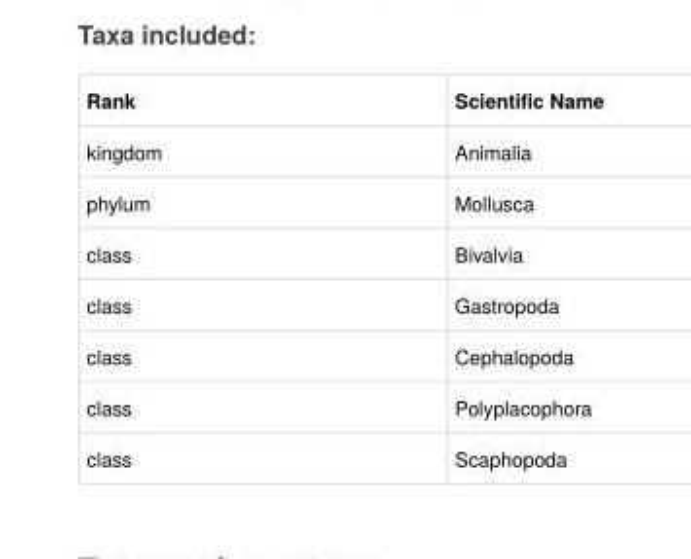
<table><thead><tr><td>Rank</td><td>Scientific Name</td></tr></thead><tbody><tr><td>kingdom</td><td>Animalia</td></tr><tr><td>phylum</td><td>Mollusca</td></tr><tr><td>class</td><td>Bivalvia</td></tr><tr><td>class</td><td>Gastropoda</td></tr><tr><td>class</td><td>Cephalopoda</td></tr><tr><td>class</td><td>Polyplacophora</td></tr><tr><td>class</td><td>Scaphopoda</td></tr></tbody></table>